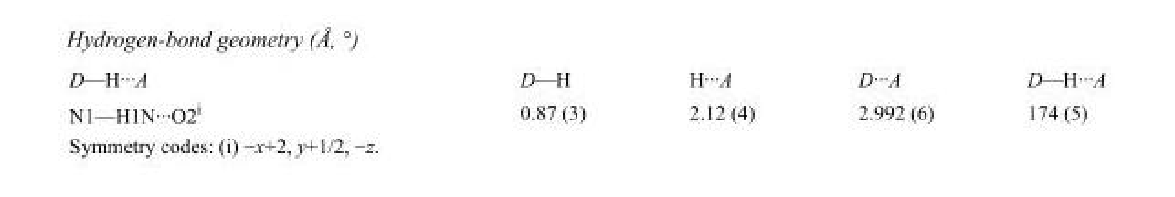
<table><tbody><tr><td>D—H···A</td><td>D—H</td><td>H···A</td><td>D···A</td><td>D—H···A</td></tr><tr><td>N1—H1N···O2<sup>i</sup></td><td>0.87 (3)</td><td>2.12 (4)</td><td>2.992 (6)</td><td>174 (5)</td></tr></tbody></table>